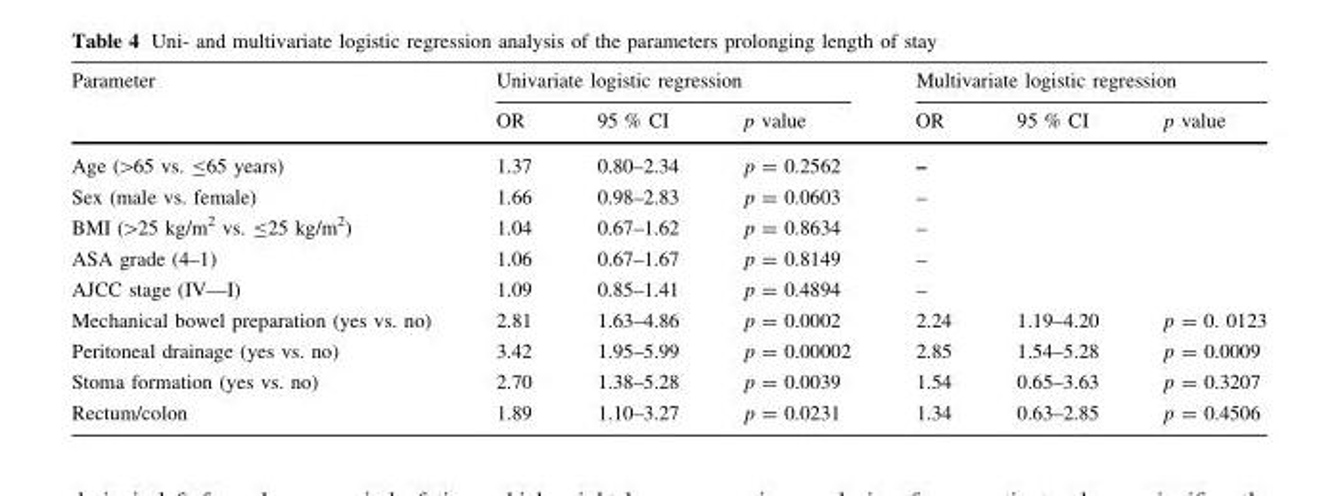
<table><thead><tr><td rowspan="2">Parameter</td><td colspan="3">Univariate logistic regression</td><td colspan="3">Multivariate logistic regression</td></tr><tr><td>OR</td><td>95 % CI</td><td>p value</td><td>OR</td><td>95 % CI</td><td>p value</td></tr></thead><tbody><tr><td>Age (&gt;65 vs. ≤65 years)</td><td>1.37</td><td>0.80–2.34</td><td>p = 0.2562</td><td colspan="3">–</td></tr><tr><td>Sex (male vs. female)</td><td>1.66</td><td>0.98–2.83</td><td>p = 0.0603</td><td colspan="3">–</td></tr><tr><td>BMI (&gt;25 kg/m<sup>2</sup> vs. ≤25 kg/m<sup>2</sup>)</td><td>1.04</td><td>0.67–1.62</td><td>p = 0.8634</td><td colspan="3">–</td></tr><tr><td>ASA grade (4–1)</td><td>1.06</td><td>0.67–1.67</td><td>p = 0.8149</td><td colspan="3">–</td></tr><tr><td>AJCC stage (IV—I)</td><td>1.09</td><td>0.85–1.41</td><td>p = 0.4894</td><td colspan="3">–</td></tr><tr><td>Mechanical bowel preparation (yes vs. no)</td><td>2.81</td><td>1.63–4.86</td><td>p = 0.0002</td><td>2.24</td><td>1.19–4.20</td><td>p = 0. 0123</td></tr><tr><td>Peritoneal drainage (yes vs. no)</td><td>3.42</td><td>1.95–5.99</td><td>p = 0.00002</td><td>2.85</td><td>1.54–5.28</td><td>p = 0.0009</td></tr><tr><td>Stoma formation (yes vs. no)</td><td>2.70</td><td>1.38–5.28</td><td>p = 0.0039</td><td>1.54</td><td>0.65–3.63</td><td>p = 0.3207</td></tr><tr><td>Rectum/colon</td><td>1.89</td><td>1.10–3.27</td><td>p = 0.0231</td><td>1.34</td><td>0.63–2.85</td><td>p = 0.4506</td></tr></tbody></table>